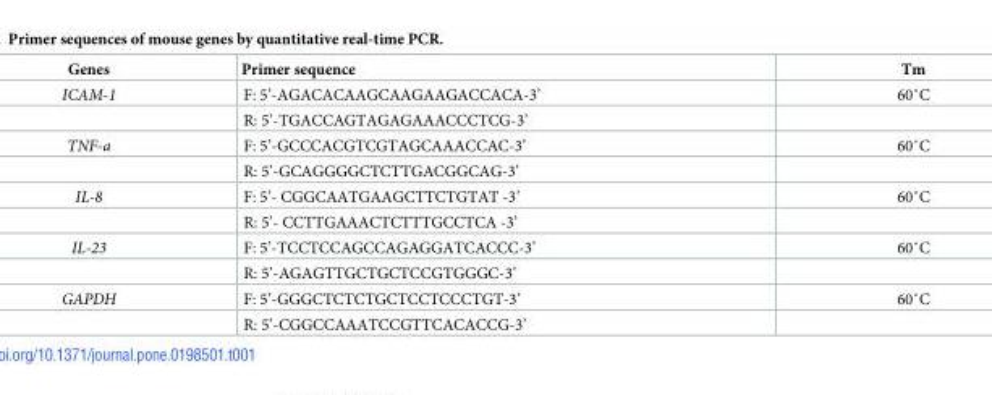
<table><thead><tr><td>Genes</td><td>Primer sequence</td><td>Tm</td></tr></thead><tbody><tr><td rowspan="2">ICAM-1</td><td>F: 5’-AGACACAAGCAAGAAGACCACA-3’</td><td>60˚C</td></tr><tr><td>R: 5’-TGACCAGTAGAGAAACCCTCG-3’</td><td></td></tr><tr><td rowspan="2">TNF-a</td><td>F: 5’-GCCCACGTCGTAGCAAACCAC-3’</td><td>60˚C</td></tr><tr><td>R: 5’-GCAGGGGCTCTTGACGGCAG-3’</td><td></td></tr><tr><td rowspan="2">IL-8</td><td>F: 5’- CGGCAATGAAGCTTCTGTAT -3’</td><td>60˚C</td></tr><tr><td>R: 5’- CCTTGAAACTCTTTGCCTCA -3’</td><td></td></tr><tr><td rowspan="2">IL-23</td><td>F: 5’-TCCTCCAGCCAGAGGATCACCC-3’</td><td>60˚C</td></tr><tr><td>R: 5’-AGAGTTGCTGCTCCGTGGGC-3’</td><td></td></tr><tr><td rowspan="2">GAPDH</td><td>F: 5’-GGGCTCTCTGCTCCTCCCTGT-3’</td><td>60˚C</td></tr><tr><td>R: 5’-CGGCCAAATCCGTTCACACCG-3’</td><td></td></tr></tbody></table>